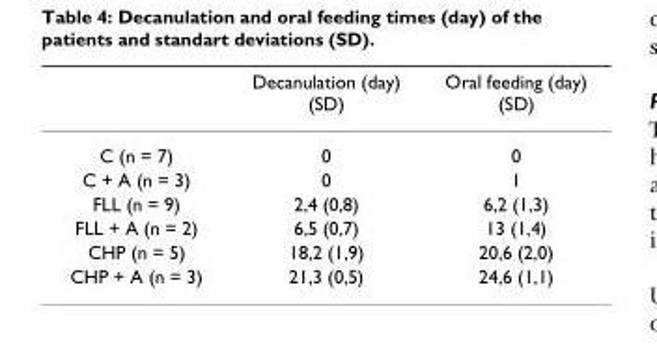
<table><thead><tr><td></td><td>Decanulation (day) (SD)</td><td>Oral feeding (day) (SD)</td></tr></thead><tbody><tr><td>C (n = 7)</td><td>0</td><td>0</td></tr><tr><td>C + A (n = 3)</td><td>0</td><td>1</td></tr><tr><td>FLL (n = 9)</td><td>2,4 (0,8)</td><td>6,2 (1,3)</td></tr><tr><td>FLL + A (n = 2)</td><td>6,5 (0,7)</td><td>13 (1,4)</td></tr><tr><td>CHP (n = 5)</td><td>18,2 (1,9)</td><td>20,6 (2,0)</td></tr><tr><td>CHP + A (n = 3)</td><td>21,3 (0,5)</td><td>24,6 (1,1)</td></tr></tbody></table>